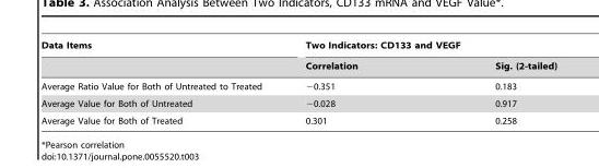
<table><thead><tr><td rowspan="2">Data Items</td><td colspan="2">Two Indicators: CD133 and VEGF</td></tr><tr><td>Correlation</td><td>Sig. (2-tailed)</td></tr></thead><tbody><tr><td>Average Ratio Value for Both of Untreated to Treated</td><td>−0.351</td><td>0.183</td></tr><tr><td>Average Value for Both of Untreated</td><td>−0.028</td><td>0.917</td></tr><tr><td>Average Value for Both of Treated</td><td>0.301</td><td>0.258</td></tr></tbody></table>